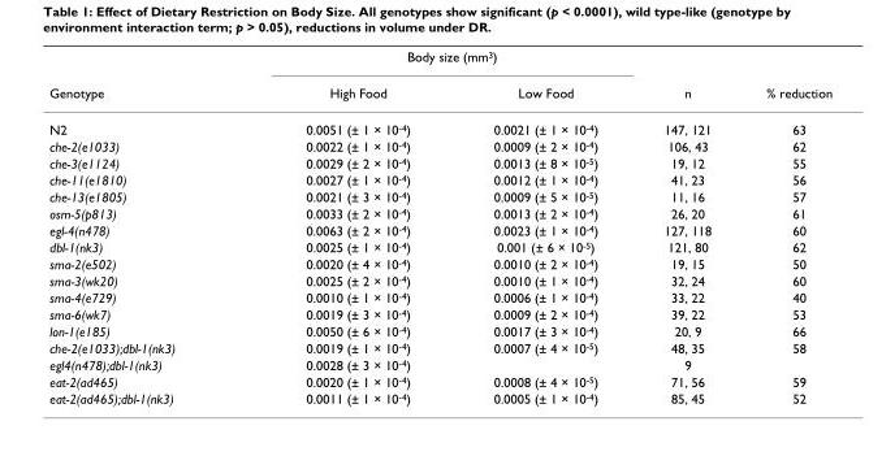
<table><thead><tr><td rowspan="2">Genotype</td><td colspan="2">Body size (mm<sup>3</sup>)</td><td rowspan="2">n</td><td rowspan="2">% reduction</td></tr><tr><td>High Food</td><td>Low Food</td></tr></thead><tbody><tr><td>N2</td><td>0.0051 (± 1 × 10<sup>-4</sup>)</td><td>0.0021 (± 1 × 10<sup>-4</sup>)</td><td>147, 121</td><td>63</td></tr><tr><td>che-2(e1033)</td><td>0.0022 (± 1 × 10<sup>-4</sup>)</td><td>0.0009 (± 2 × 10<sup>-4</sup>)</td><td>106, 43</td><td>62</td></tr><tr><td>che-3(e1124)</td><td>0.0029 (± 2 × 10<sup>-4</sup>)</td><td>0.0013 (± 8 × 10<sup>-5</sup>)</td><td>19, 12</td><td>55</td></tr><tr><td>che-11(e1810)</td><td>0.0027 (± 1 × 10<sup>-4</sup>)</td><td>0.0012 (± 1 × 10<sup>-4</sup>)</td><td>41, 23</td><td>56</td></tr><tr><td>che-13(e1805)</td><td>0.0021 (± 3 × 10<sup>-4</sup>)</td><td>0.0009 (± 5 × 10<sup>-5</sup>)</td><td>11, 16</td><td>57</td></tr><tr><td>osm-5(p813)</td><td>0.0033 (± 2 × 10<sup>-4</sup>)</td><td>0.0013 (± 2 × 10<sup>-4</sup>)</td><td>26, 20</td><td>61</td></tr><tr><td>egl-4(n478)</td><td>0.0063 (± 2 × 10<sup>-4</sup>)</td><td>0.0023 (± 1 × 10<sup>-4</sup>)</td><td>127, 118</td><td>60</td></tr><tr><td>dbl-1(nk3)</td><td>0.0025 (± 1 × 10<sup>-4</sup>)</td><td>0.001 (± 6 × 10<sup>-5</sup>)</td><td>121, 80</td><td>62</td></tr><tr><td>sma-2(e502)</td><td>0.0020 (± 4 × 10<sup>-4</sup>)</td><td>0.0010 (± 2 × 10<sup>-4</sup>)</td><td>19, 15</td><td>50</td></tr><tr><td>sma-3(wk20)</td><td>0.0025 (± 2 × 10<sup>-4</sup>)</td><td>0.0010 (± 1 × 10<sup>-4</sup>)</td><td>32, 24</td><td>60</td></tr><tr><td>sma-4(e729)</td><td>0.0010 (± 1 × 10<sup>-4</sup>)</td><td>0.0006 (± 1 × 10<sup>-4</sup>)</td><td>33, 22</td><td>40</td></tr><tr><td>sma-6(wk7)</td><td>0.0019 (± 3 × 10<sup>-4</sup>)</td><td>0.0009 (± 2 × 10<sup>-4</sup>)</td><td>39, 22</td><td>53</td></tr><tr><td>lon-1(e185)</td><td>0.0050 (± 6 × 10<sup>-4</sup>)</td><td>0.0017 (± 3 × 10<sup>-4</sup>)</td><td>20, 9</td><td>66</td></tr><tr><td>che-2(e1033);dbl-1(nk3)</td><td>0.0019 (± 1 × 10<sup>-4</sup>)</td><td>0.0007 (± 4 × 10<sup>-5</sup>)</td><td>48, 35</td><td>58</td></tr><tr><td>egl4(n478);dbl-1(nk3)</td><td>0.0028 (± 3 × 10<sup>-4</sup>)</td><td></td><td>9</td><td></td></tr><tr><td>eat-2(ad465)</td><td>0.0020 (± 1 × 10<sup>-4</sup>)</td><td>0.0008 (± 4 × 10<sup>-5</sup>)</td><td>71, 56</td><td>59</td></tr><tr><td>eat-2(ad465);dbl-1(nk3)</td><td>0.0011 (± 1 × 10<sup>-4</sup>)</td><td>0.0005 (± 1 × 10<sup>-4</sup>)</td><td>85, 45</td><td>52</td></tr></tbody></table>